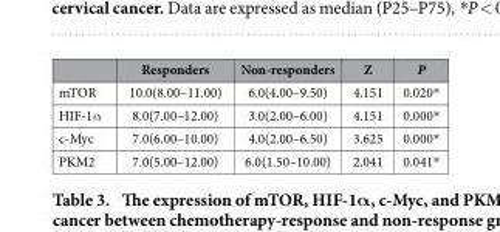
<table><thead><tr><td></td><td>Responders</td><td>Non-responders</td><td>Z</td><td>P</td></tr></thead><tbody><tr><td>mTOR</td><td>10.0(8.00–11.00)</td><td>6.0(4.00–9.50)</td><td>4.151</td><td>0.020*</td></tr><tr><td>HIF-1α</td><td>8.0(7.00–12.00)</td><td>3.0(2.00–6.00)</td><td>4.151</td><td>0.000*</td></tr><tr><td>c-Myc</td><td>7.0(6.00–10.00)</td><td>4.0(2.00–6.50)</td><td>3.625</td><td>0.000*</td></tr><tr><td>PKM2</td><td>7.0(5.00–12.00)</td><td>6.0(1.50–10.00)</td><td>2.041</td><td>0.041*</td></tr></tbody></table>